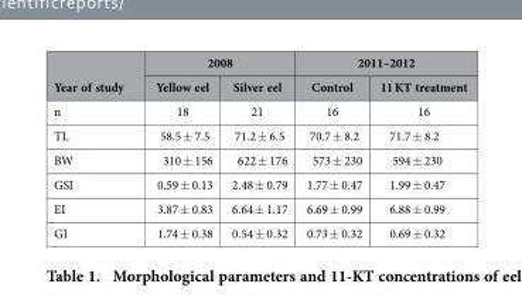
<table><thead><tr><td rowspan="2">Year of study</td><td colspan="2">2008</td><td colspan="2">2011–2012</td></tr><tr><td>Yellow eel</td><td>Silver eel</td><td>Control</td><td>11 KT treatment</td></tr></thead><tbody><tr><td>n</td><td>18</td><td>21</td><td>16</td><td>16</td></tr><tr><td>TL</td><td>58.5 ± 7.5</td><td>71.2 ± 6.5</td><td>70.7 ± 8.2</td><td>71.7 ± 8.2</td></tr><tr><td>BW</td><td>310 ± 156</td><td>622 ± 176</td><td>573 ± 230</td><td>594 ± 230</td></tr><tr><td>GSI</td><td>0.59 ± 0.13</td><td>2.48 ± 0.79</td><td>1.77 ± 0.47</td><td>1.99 ± 0.47</td></tr><tr><td>EI</td><td>3.87 ± 0.83</td><td>6.64 ± 1.17</td><td>6.69 ± 0.99</td><td>6.88 ± 0.99</td></tr><tr><td>GI</td><td>1.74 ± 0.38</td><td>0.54 ± 0.32</td><td>0.73 ± 0.32</td><td>0.69 ± 0.32</td></tr></tbody></table>